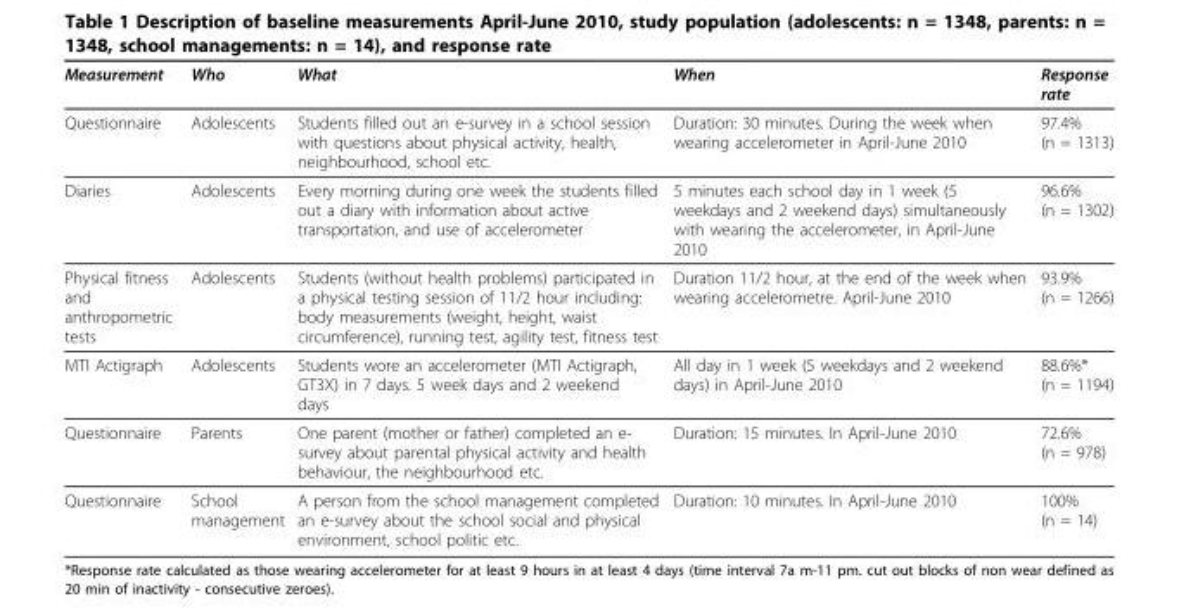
<table><thead><tr><td>Measurement</td><td>Who</td><td>What</td><td>When</td><td>Response rate</td></tr></thead><tbody><tr><td>Questionnaire</td><td>Adolescents</td><td>Students filled out an e-survey in a school session with questions about physical activity, health, neighbourhood, school etc.</td><td>Duration: 30 minutes. During the week when wearing accelerometer in April-June 2010</td><td>97.4% (n = 1313)</td></tr><tr><td>Diaries</td><td>Adolescents</td><td>Every morning during one week the students filled out a diary with information about active transportation, and use of accelerometer</td><td>5 minutes each school day in 1 week (5 weekdays and 2 weekend days) simultaneously with wearing the accelerometer, in April-June 2010</td><td>96.6% (n = 1302)</td></tr><tr><td>Physical fitness and anthropometric tests</td><td>Adolescents</td><td>Students (without health problems) participated in a physical testing session of 11/2 hour including: body measurements (weight, height, waist circumference), running test, agility test, fitness test</td><td>Duration 11/2 hour, at the end of the week when wearing accelerometre. April-June 2010</td><td>93.9% (n = 1266)</td></tr><tr><td>MTI Actigraph</td><td>Adolescents</td><td>Students wore an accelerometer (MTI Actigraph, GT3X) in 7 days. 5 week days and 2 weekend days</td><td>All day in 1 week (5 weekdays and 2 weekend days) in April-June 2010</td><td>88.6%* (n = 1194)</td></tr><tr><td>Questionnaire</td><td>Parents</td><td>One parent (mother or father) completed an e- survey about parental physical activity and health behaviour, the neighbourhood etc.</td><td>Duration: 15 minutes. In April-June 2010</td><td>72.6% (n = 978)</td></tr><tr><td>Questionnaire</td><td>School management</td><td>A person from the school management completed an e-survey about the school social and physical environment, school politic etc.</td><td>Duration: 10 minutes. In April-June 2010</td><td>100% (n = 14)</td></tr></tbody></table>